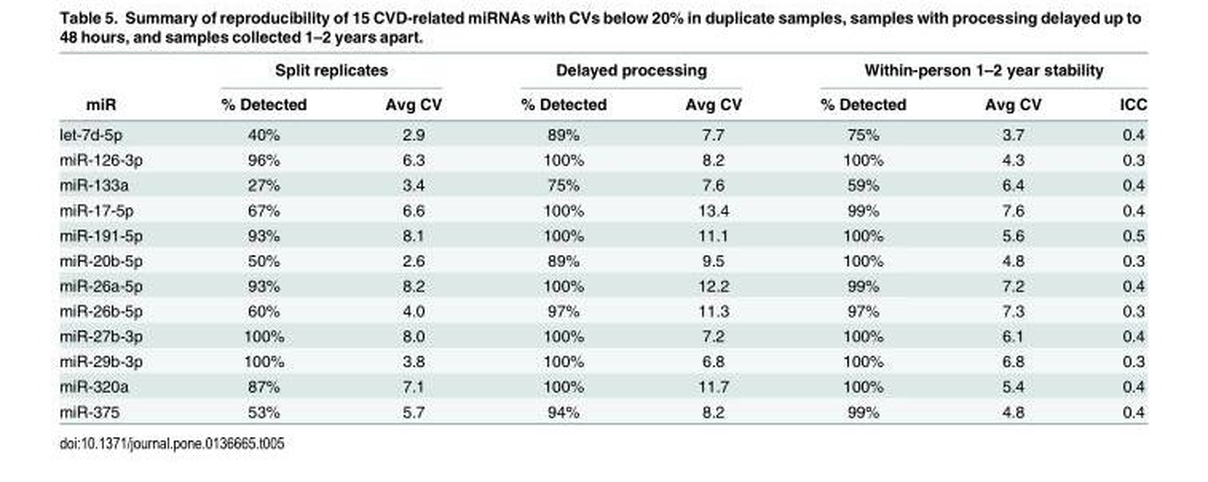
<table><thead><tr><td rowspan="2">miR</td><td colspan="2">Split replicates</td><td colspan="2">Delayed processing</td><td colspan="3">Within-person 1–2 year stability</td></tr><tr><td>% Detected</td><td>Avg CV</td><td>% Detected</td><td>Avg CV</td><td>% Detected</td><td>Avg CV</td><td>ICC</td></tr></thead><tbody><tr><td>let-7d-5p</td><td>40%</td><td>2.9</td><td>89%</td><td>7.7</td><td>75%</td><td>3.7</td><td>0.4</td></tr><tr><td>miR-126-3p</td><td>96%</td><td>6.3</td><td>100%</td><td>8.2</td><td>100%</td><td>4.3</td><td>0.3</td></tr><tr><td>miR-133a</td><td>27%</td><td>3.4</td><td>75%</td><td>7.6</td><td>59%</td><td>6.4</td><td>0.4</td></tr><tr><td>miR-17-5p</td><td>67%</td><td>6.6</td><td>100%</td><td>13.4</td><td>99%</td><td>7.6</td><td>0.4</td></tr><tr><td>miR-191-5p</td><td>93%</td><td>8.1</td><td>100%</td><td>11.1</td><td>100%</td><td>5.6</td><td>0.5</td></tr><tr><td>miR-20b-5p</td><td>50%</td><td>2.6</td><td>89%</td><td>9.5</td><td>100%</td><td>4.8</td><td>0.3</td></tr><tr><td>miR-26a-5p</td><td>93%</td><td>8.2</td><td>100%</td><td>12.2</td><td>99%</td><td>7.2</td><td>0.4</td></tr><tr><td>miR-26b-5p</td><td>60%</td><td>4.0</td><td>97%</td><td>11.3</td><td>97%</td><td>7.3</td><td>0.3</td></tr><tr><td>miR-27b-3p</td><td>100%</td><td>8.0</td><td>100%</td><td>7.2</td><td>100%</td><td>6.1</td><td>0.4</td></tr><tr><td>miR-29b-3p</td><td>100%</td><td>3.8</td><td>100%</td><td>6.8</td><td>100%</td><td>6.8</td><td>0.3</td></tr><tr><td>miR-320a</td><td>87%</td><td>7.1</td><td>100%</td><td>11.7</td><td>100%</td><td>5.4</td><td>0.4</td></tr><tr><td>miR-375</td><td>53%</td><td>5.7</td><td>94%</td><td>8.2</td><td>99%</td><td>4.8</td><td>0.4</td></tr></tbody></table>